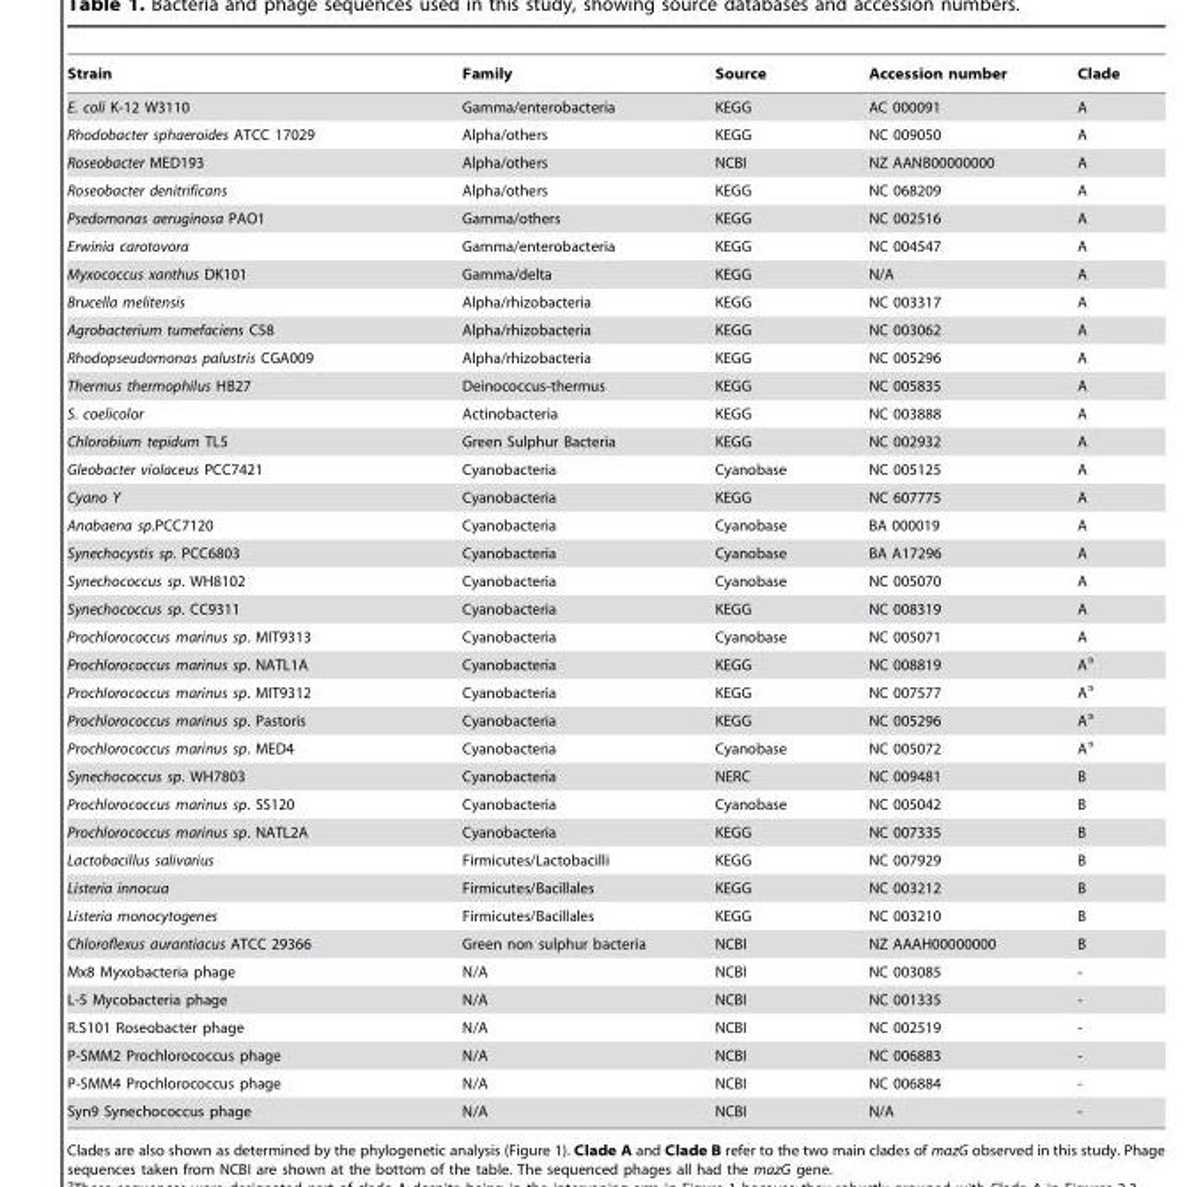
<table><thead><tr><td>Strain</td><td>Family</td><td>Source</td><td>Accession number</td><td>Clade</td></tr></thead><tbody><tr><td>E. coli K-12 W3110</td><td>Gamma/enterobacteria</td><td>KEGG</td><td>AC 000091</td><td>A</td></tr><tr><td>Rhodobacter sphaeroides ATCC 17029</td><td>Alpha/others</td><td>KEGG</td><td>NC 009050</td><td>A</td></tr><tr><td>Roseobacter MED193</td><td>Alpha/others</td><td>NCBI</td><td>NZ AANB00000000</td><td>A</td></tr><tr><td>Roseobacter denitrificans</td><td>Alpha/others</td><td>KEGG</td><td>NC 068209</td><td>A</td></tr><tr><td>Psedomonas aeruginosa PAO1</td><td>Gamma/others</td><td>KEGG</td><td>NC 002516</td><td>A</td></tr><tr><td>Erwinia carotovora</td><td>Gamma/enterobacteria</td><td>KEGG</td><td>NC 004547</td><td>A</td></tr><tr><td>Myxococcus xanthus DK101</td><td>Gamma/delta</td><td>KEGG</td><td>N/A</td><td>A</td></tr><tr><td>Brucella melitensis</td><td>Alpha/rhizobacteria</td><td>KEGG</td><td>NC 003317</td><td>A</td></tr><tr><td>Agrobacterium tumefaciens C58</td><td>Alpha/rhizobacteria</td><td>KEGG</td><td>NC 003062</td><td>A</td></tr><tr><td>Rhodopseudomonas palustris CGA009</td><td>Alpha/rhizobacteria</td><td>KEGG</td><td>NC 005296</td><td>A</td></tr><tr><td>Thermus thermophilus HB27</td><td>Deinococcus-thermus</td><td>KEGG</td><td>NC 005835</td><td>A</td></tr><tr><td>S. coelicolor</td><td>Actinobacteria</td><td>KEGG</td><td>NC 003888</td><td>A</td></tr><tr><td>Chlorobium tepidum TL5</td><td>Green Sulphur Bacteria</td><td>KEGG</td><td>NC 002932</td><td>A</td></tr><tr><td>Gleobacter violaceus PCC7421</td><td>Cyanobacteria</td><td>Cyanobase</td><td>NC 005125</td><td>A</td></tr><tr><td>Cyano Y</td><td>Cyanobacteria</td><td>KEGG</td><td>NC 607775</td><td>A</td></tr><tr><td>Anabaena sp.PCC7120</td><td>Cyanobacteria</td><td>Cyanobase</td><td>BA 000019</td><td>A</td></tr><tr><td>Synechocystis sp. PCC6803</td><td>Cyanobacteria</td><td>Cyanobase</td><td>BA A17296</td><td>A</td></tr><tr><td>Synechococcus sp. WH8102</td><td>Cyanobacteria</td><td>Cyanobase</td><td>NC 005070</td><td>A</td></tr><tr><td>Synechococcus sp. CC9311</td><td>Cyanobacteria</td><td>KEGG</td><td>NC 008319</td><td>A</td></tr><tr><td>Prochlorococcus marinus sp. MIT9313</td><td>Cyanobacteria</td><td>Cyanobase</td><td>NC 005071</td><td>A</td></tr><tr><td>Prochlorococcus marinus sp. NATL1A</td><td>Cyanobacteria</td><td>KEGG</td><td>NC 008819</td><td>Aα</td></tr><tr><td>Prochlorococcus marinus sp. MIT9312</td><td>Cyanobacteria</td><td>KEGG</td><td>NC 007577</td><td>Aα</td></tr><tr><td>Prochlorococcus marinus sp. Pastoris</td><td>Cyanobacteria</td><td>KEGG</td><td>NC 005296</td><td>Aα</td></tr><tr><td>Prochlorococcus marinus sp. MED4</td><td>Cyanobacteria</td><td>Cyanobase</td><td>NC 005072</td><td>Aα</td></tr><tr><td>Synechococcus sp. WH7803</td><td>Cyanobacteria</td><td>NERC</td><td>NC 009481</td><td>B</td></tr><tr><td>Prochlorococcus marinus sp. SS120</td><td>Cyanobacteria</td><td>Cyanobase</td><td>NC 005042</td><td>B</td></tr><tr><td>Prochlorococcus marinus sp. NATL2A</td><td>Cyanobacteria</td><td>KEGG</td><td>NC 007335</td><td>B</td></tr><tr><td>Lactobacillus salivarius</td><td>Firmicutes/Lactobacilli</td><td>KEGG</td><td>NC 007929</td><td>B</td></tr><tr><td>Listeria innocua</td><td>Firmicutes/Bacillales</td><td>KEGG</td><td>NC 003212</td><td>B</td></tr><tr><td>Listeria monocytogenes</td><td>Firmicutes/Bacillales</td><td>KEGG</td><td>NC 003210</td><td>B</td></tr><tr><td>Chloroflexus aurantiacus ATCC 29366</td><td>Green non sulphur bacteria</td><td>NCBI</td><td>NZ AAAH00000000</td><td>B</td></tr><tr><td>Mx8 Myxobacteria phage</td><td>N/A</td><td>NCBI</td><td>NC 003085</td><td>-</td></tr><tr><td>L-5 Mycobacteria phage</td><td>N/A</td><td>NCBI</td><td>NC 001335</td><td>-</td></tr><tr><td>R.S101 Roseobacter phage</td><td>N/A</td><td>NCBI</td><td>NC 002519</td><td>-</td></tr><tr><td>P-SMM2 Prochlorococcus phage</td><td>N/A</td><td>NCBI</td><td>NC 006883</td><td>-</td></tr><tr><td>P-SMM4 Prochlorococcus phage</td><td>N/A</td><td>NCBI</td><td>NC 006884</td><td>-</td></tr><tr><td>Syn9 Synechococcus phage</td><td>N/A</td><td>NCBI</td><td>N/A</td><td>-</td></tr></tbody></table>